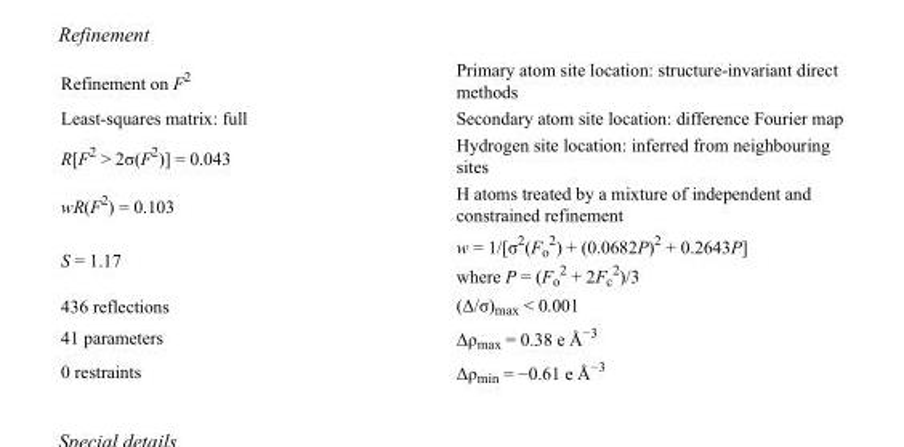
<table><tbody><tr><td>Refinement on F<sup>2</sup></td><td>Primary atom site location: structure-invariant direct methods</td></tr><tr><td>Least-squares matrix: full</td><td>Secondary atom site location: difference Fourier map</td></tr><tr><td>R[F<sup>2</sup> &gt; 2σ(F<sup>2</sup>)] = 0.043</td><td>Hydrogen site location: inferred from neighbouring sites</td></tr><tr><td>wR(F<sup>2</sup>) = 0.103</td><td>H atoms treated by a mixture of independent and constrained refinement</td></tr><tr><td>S = 1.17</td><td>w = 1/[σ<sup>2</sup>(F<sub>o</sub> <sup>2</sup>) + (0.0682P)<sup>2</sup> + 0.2643P] where P = (F<sub>o</sub> <sup>2</sup> + 2F<sub>c</sub> <sup>2</sup>)/3</td></tr><tr><td>436 reflections</td><td>(Δ/σ)<sub>max</sub> &lt; 0.001</td></tr><tr><td>41 parameters</td><td>Δρ<sub>max</sub> = 0.38 e Å<sup>−3</sup></td></tr><tr><td>0 restraints</td><td>Δρ<sub>min</sub> = −0.61 e Å<sup>−3</sup></td></tr></tbody></table>